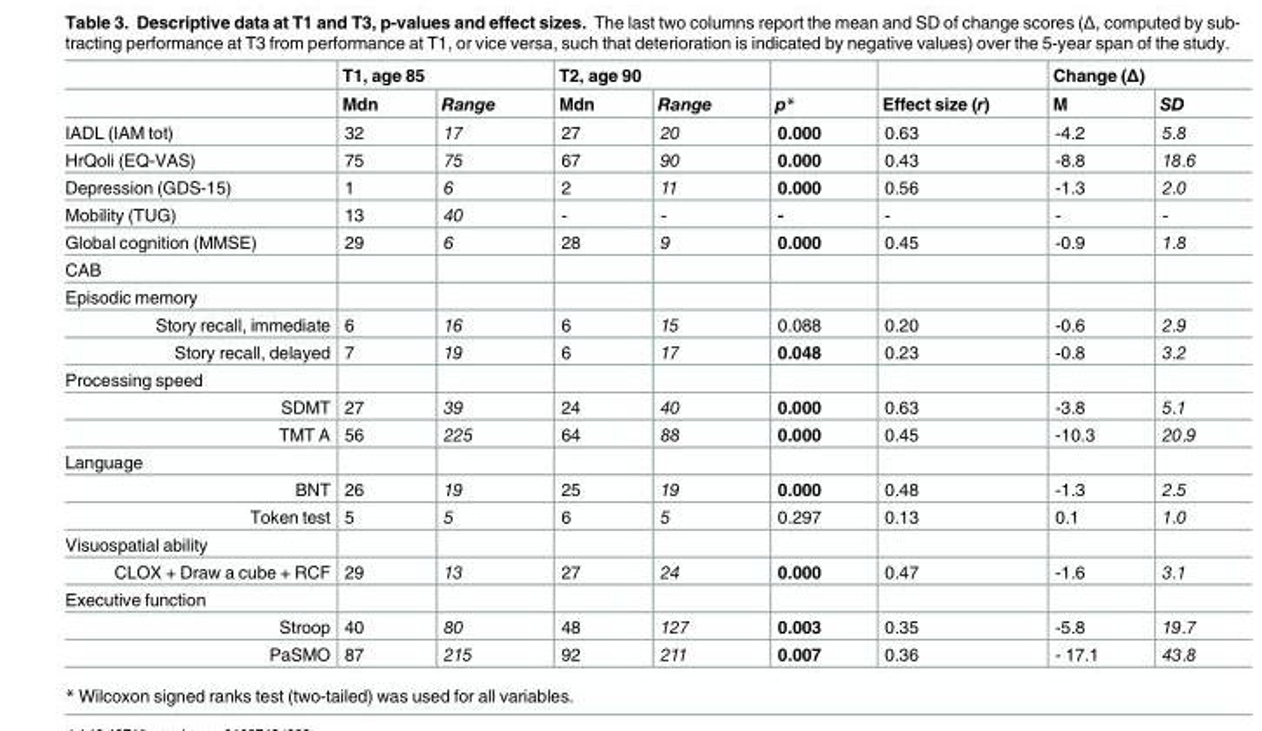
<table><thead><tr><td rowspan="2"></td><td colspan="2">T1, age 85</td><td colspan="2">T2, age 90</td><td rowspan="2">p*</td><td rowspan="2">Effect size (r)</td><td colspan="2">Change (Δ)</td></tr><tr><td>Mdn</td><td>Range</td><td>Mdn</td><td>Range</td><td>M</td><td>SD</td></tr></thead><tbody><tr><td>IADL (IAM tot)</td><td>32</td><td>17</td><td>27</td><td>20</td><td>0.000</td><td>0.63</td><td>-4.2</td><td>5.8</td></tr><tr><td>HrQoli (EQ-VAS)</td><td>75</td><td>75</td><td>67</td><td>90</td><td>0.000</td><td>0.43</td><td>-8.8</td><td>18.6</td></tr><tr><td>Depression (GDS-15)</td><td>1</td><td>6</td><td>2</td><td>11</td><td>0.000</td><td>0.56</td><td>-1.3</td><td>2.0</td></tr><tr><td>Mobility (TUG)</td><td>13</td><td>40</td><td>-</td><td>-</td><td>-</td><td>-</td><td>-</td><td>-</td></tr><tr><td>Global cognition (MMSE)</td><td>29</td><td>6</td><td>28</td><td>9</td><td>0.000</td><td>0.45</td><td>-0.9</td><td>1.8</td></tr><tr><td colspan="9">CAB</td></tr><tr><td colspan="9">Episodic memory</td></tr><tr><td>Story recall, immediate</td><td>6</td><td>16</td><td>6</td><td>15</td><td>0.088</td><td>0.20</td><td>-0.6</td><td>2.9</td></tr><tr><td>Story recall, delayed</td><td>7</td><td>19</td><td>6</td><td>17</td><td>0.048</td><td>0.23</td><td>-0.8</td><td>3.2</td></tr><tr><td colspan="9">Processing speed</td></tr><tr><td>SDMT</td><td>27</td><td>39</td><td>24</td><td>40</td><td>0.000</td><td>0.63</td><td>-3.8</td><td>5.1</td></tr><tr><td>TMT A</td><td>56</td><td>225</td><td>64</td><td>88</td><td>0.000</td><td>0.45</td><td>-10.3</td><td>20.9</td></tr><tr><td colspan="9">Language</td></tr><tr><td>BNT</td><td>26</td><td>19</td><td>25</td><td>19</td><td>0.000</td><td>0.48</td><td>-1.3</td><td>2.5</td></tr><tr><td>Token test</td><td>5</td><td>5</td><td>6</td><td>5</td><td>0.297</td><td>0.13</td><td>0.1</td><td>1.0</td></tr><tr><td colspan="9">Visuospatial ability</td></tr><tr><td>CLOX + Draw a cube + RCF</td><td>29</td><td>13</td><td>27</td><td>24</td><td>0.000</td><td>0.47</td><td>-1.6</td><td>3.1</td></tr><tr><td colspan="9">Executive function</td></tr><tr><td>Stroop</td><td>40</td><td>80</td><td>48</td><td>127</td><td>0.003</td><td>0.35</td><td>-5.8</td><td>19.7</td></tr><tr><td>PaSMO</td><td>87</td><td>215</td><td>92</td><td>211</td><td>0.007</td><td>0.36</td><td>- 17.1</td><td>43.8</td></tr></tbody></table>